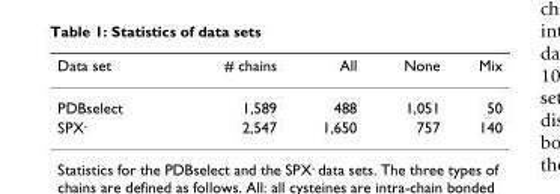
<table><thead><tr><td>Data set</td><td># chains</td><td>All</td><td>None</td><td>Mix</td></tr></thead><tbody><tr><td>PDBselect</td><td>1,589</td><td>488</td><td>1,051</td><td>50</td></tr><tr><td>SPX<sup>-</sup></td><td>2,547</td><td>1,650</td><td>757</td><td>140</td></tr></tbody></table>